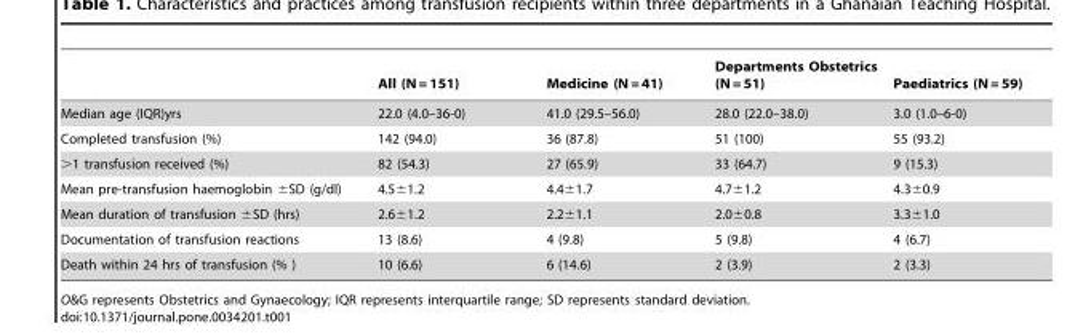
<table><thead><tr><td></td><td>All (N = 151)</td><td>Medicine (N = 41)</td><td>Departments Obstetrics (N = 51)</td><td>Paediatrics (N = 59)</td></tr></thead><tbody><tr><td>Median age (IQR)yrs</td><td>22.0 (4.0–36-0)</td><td>41.0 (29.5–56.0)</td><td>28.0 (22.0–38.0)</td><td>3.0 (1.0–6-0)</td></tr><tr><td>Completed transfusion (%)</td><td>142 (94.0)</td><td>36 (87.8)</td><td>51 (100)</td><td>55 (93.2)</td></tr><tr><td>&gt;1 transfusion received (%)</td><td>82 (54.3)</td><td>27 (65.9)</td><td>33 (64.7)</td><td>9 (15.3)</td></tr><tr><td>Mean pre-transfusion haemoglobin ±SD (g/dl)</td><td>4.5±1.2</td><td>4.4±1.7</td><td>4.7±1.2</td><td>4.3±0.9</td></tr><tr><td>Mean duration of transfusion ±SD (hrs)</td><td>2.6±1.2</td><td>2.2±1.1</td><td>2.0±0.8</td><td>3.3±1.0</td></tr><tr><td>Documentation of transfusion reactions</td><td>13 (8.6)</td><td>4 (9.8)</td><td>5 (9.8)</td><td>4 (6.7)</td></tr><tr><td>Death within 24 hrs of transfusion (% )</td><td>10 (6.6)</td><td>6 (14.6)</td><td>2 (3.9)</td><td>2 (3.3)</td></tr></tbody></table>